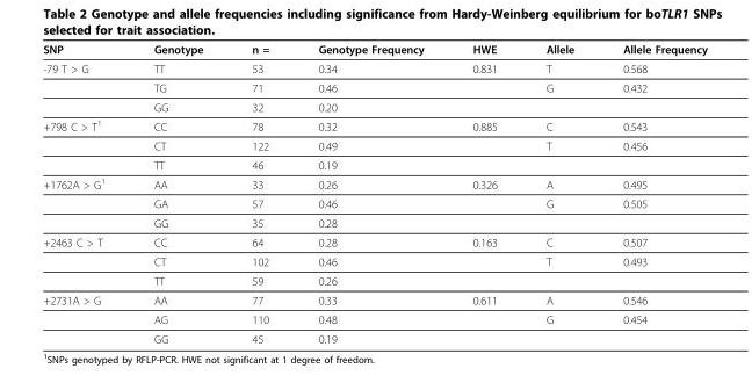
<table><thead><tr><td>SNP</td><td>Genotype</td><td>n =</td><td>Genotype Frequency</td><td>HWE</td><td>Allele</td><td>Allele Frequency</td></tr></thead><tbody><tr><td rowspan="3">-79 T &gt; G</td><td>TT</td><td>53</td><td>0.34</td><td>0.831</td><td>T</td><td>0.568</td></tr><tr><td>TG</td><td>71</td><td>0.46</td><td></td><td>G</td><td>0.432</td></tr><tr><td>GG</td><td>32</td><td>0.20</td><td></td><td></td><td></td></tr><tr><td rowspan="3">+798 C &gt; T<sup>1</sup></td><td>CC</td><td>78</td><td>0.32</td><td>0.885</td><td>C</td><td>0.543</td></tr><tr><td>CT</td><td>122</td><td>0.49</td><td></td><td>T</td><td>0.456</td></tr><tr><td>TT</td><td>46</td><td>0.19</td><td></td><td></td><td></td></tr><tr><td rowspan="3">+1762A &gt; G<sup>1</sup></td><td>AA</td><td>33</td><td>0.26</td><td>0.326</td><td>A</td><td>0.495</td></tr><tr><td>GA</td><td>57</td><td>0.46</td><td></td><td>G</td><td>0.505</td></tr><tr><td>GG</td><td>35</td><td>0.28</td><td></td><td></td><td></td></tr><tr><td rowspan="3">+2463 C &gt; T</td><td>CC</td><td>64</td><td>0.28</td><td>0.163</td><td>C</td><td>0.507</td></tr><tr><td>CT</td><td>102</td><td>0.46</td><td></td><td>T</td><td>0.493</td></tr><tr><td>TT</td><td>59</td><td>0.26</td><td></td><td></td><td></td></tr><tr><td rowspan="3">+2731A &gt; G</td><td>AA</td><td>77</td><td>0.33</td><td>0.611</td><td>A</td><td>0.546</td></tr><tr><td>AG</td><td>110</td><td>0.48</td><td></td><td>G</td><td>0.454</td></tr><tr><td>GG</td><td>45</td><td>0.19</td><td></td><td></td><td></td></tr></tbody></table>